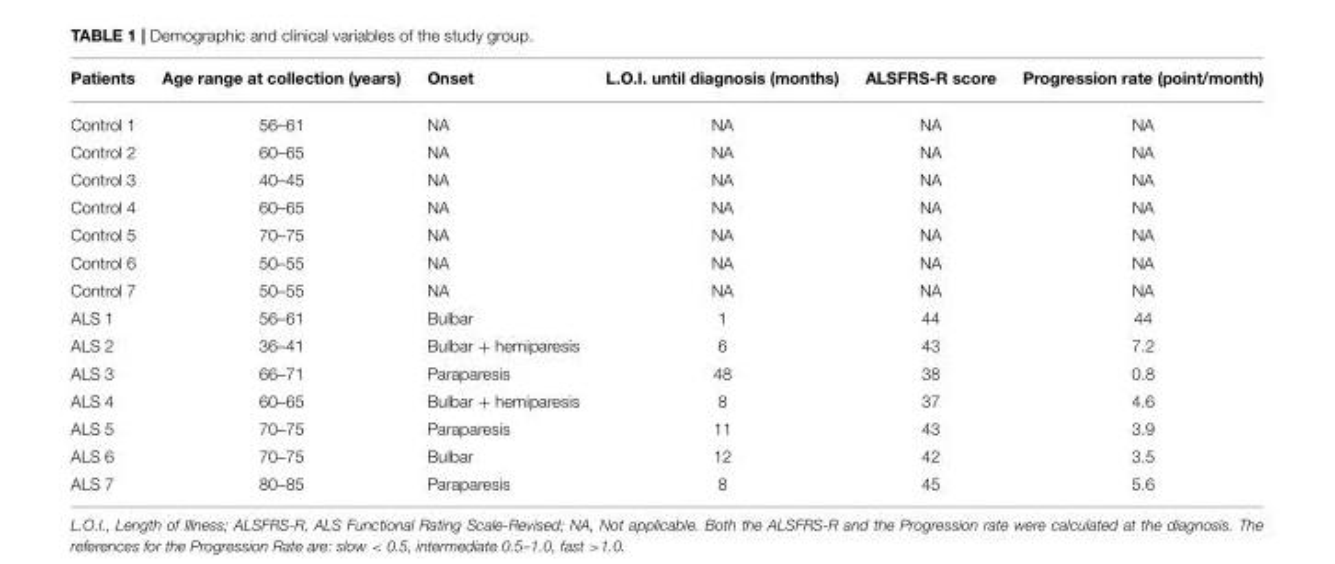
<table><thead><tr><td>Patients</td><td>Age range at collection (years)</td><td>Onset</td><td>L.O.I. until diagnosis (months)</td><td>ALSFRS-R score</td><td>Progression rate (point/month)</td></tr></thead><tbody><tr><td>Control 1</td><td>56–61</td><td>NA</td><td>NA</td><td>NA</td><td>NA</td></tr><tr><td>Control 2</td><td>60–65</td><td>NA</td><td>NA</td><td>NA</td><td>NA</td></tr><tr><td>Control 3</td><td>40–45</td><td>NA</td><td>NA</td><td>NA</td><td>NA</td></tr><tr><td>Control 4</td><td>60–65</td><td>NA</td><td>NA</td><td>NA</td><td>NA</td></tr><tr><td>Control 5</td><td>70–75</td><td>NA</td><td>NA</td><td>NA</td><td>NA</td></tr><tr><td>Control 6</td><td>50–55</td><td>NA</td><td>NA</td><td>NA</td><td>NA</td></tr><tr><td>Control 7</td><td>50–55</td><td>NA</td><td>NA</td><td>NA</td><td>NA</td></tr><tr><td>ALS 1</td><td>56–61</td><td>Bulbar</td><td>1</td><td>44</td><td>44</td></tr><tr><td>ALS 2</td><td>36–41</td><td>Bulbar + hemiparesis</td><td>6</td><td>43</td><td>7.2</td></tr><tr><td>ALS 3</td><td>66–71</td><td>Paraparesis</td><td>48</td><td>38</td><td>0.8</td></tr><tr><td>ALS 4</td><td>60–65</td><td>Bulbar + hemiparesis</td><td>8</td><td>37</td><td>4.6</td></tr><tr><td>ALS 5</td><td>70–75</td><td>Paraparesis</td><td>11</td><td>43</td><td>3.9</td></tr><tr><td>ALS 6</td><td>70–75</td><td>Bulbar</td><td>12</td><td>42</td><td>3.5</td></tr><tr><td>ALS 7</td><td>80–85</td><td>Paraparesis</td><td>8</td><td>45</td><td>5.6</td></tr></tbody></table>